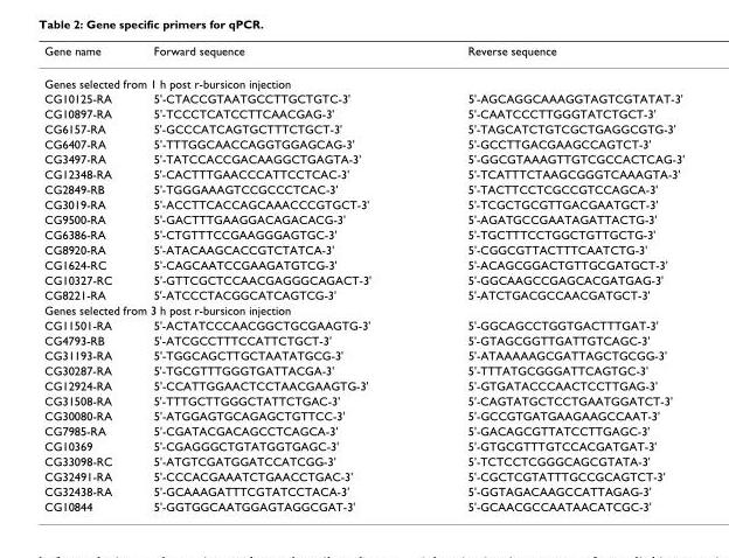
<table><thead><tr><td>Gene name</td><td>Forward sequence</td><td>Reverse sequence</td></tr></thead><tbody><tr><td colspan="3">Genes selected from 1 h post r-bursicon injection</td></tr><tr><td>CG10125-RA</td><td>5&#x27;-CTACCGTAATGCCTTGCTGTC-3&#x27;</td><td>5&#x27;-AGCAGGCAAAGGTAGTCGTATAT-3&#x27;</td></tr><tr><td>CG10897-RA</td><td>5&#x27;-TCCCTCATCCTTCAACGAG-3&#x27;</td><td>5&#x27;-CAATCCCTTGGGTATCTGCT-3&#x27;</td></tr><tr><td>CG6157-RA</td><td>5&#x27;-GCCCATCAGTGCTTTCTGCT-3&#x27;</td><td>5&#x27;-TAGCATCTGTCGCTGAGGCGTG-3&#x27;</td></tr><tr><td>CG6407-RA</td><td>5&#x27;-TTTGGCAACCAGGTGGAGCAG-3&#x27;</td><td>5&#x27;-GCCTTGACGAAGCCAGTCT-3&#x27;</td></tr><tr><td>CG3497-RA</td><td>5&#x27;-TATCCACCGACAAGGCTGAGTA-3&#x27;</td><td>5&#x27;-GGCGTAAAGTTGTCGCCACTCAG-3&#x27;</td></tr><tr><td>CG12348-RA</td><td>5&#x27;-CACTTTGAACCCATTCCTCAC-3&#x27;</td><td>5&#x27;-TCATTTCTAAGCGGGTCAAAGTA-3&#x27;</td></tr><tr><td>CG2849-RB</td><td>5&#x27;-TGGGAAAGTCCGCCCTCAC-3&#x27;</td><td>5&#x27;-TACTTCCTCGCCGTCCAGCA-3&#x27;</td></tr><tr><td>CG3019-RA</td><td>5&#x27;-ACCTTCACCAGCAAACCCGTGCT-3&#x27;</td><td>5&#x27;-TCGCTGCGTTGACGAATGCT-3&#x27;</td></tr><tr><td>CG9500-RA</td><td>5&#x27;-GACTTTGAAGGACAGACACG-3&#x27;</td><td>5&#x27;-AGATGCCGAATAGATTACTG-3&#x27;</td></tr><tr><td>CG6386-RA</td><td>5&#x27;-CTGTTTCCGAAGGGAGTGC-3&#x27;</td><td>5&#x27;-TGCTTTCCTGGCTGTTGCTG-3&#x27;</td></tr><tr><td>CG8920-RA</td><td>5&#x27;-ATACAAGCACCGTCTATCA-3&#x27;</td><td>5&#x27;-CGGCGTTACTTTCAATCTG-3&#x27;</td></tr><tr><td>CG1624-RC</td><td>5&#x27;-CAGCAATCCGAAGATGTCG-3&#x27;</td><td>5&#x27;-ACAGCGGACTGTTGCGATGCT-3&#x27;</td></tr><tr><td>CG10327-RC</td><td>5&#x27;-GTTCGCTCCAACGAGGGCAGACT-3&#x27;</td><td>5&#x27;-GGCAAGCCGAGCACGATGAG-3&#x27;</td></tr><tr><td>CG8221-RA</td><td>5&#x27;-ATCCCTACGGCATCAGTCG-3&#x27;</td><td>5&#x27;-ATCTGACGCCAACGATGCT-3&#x27;</td></tr><tr><td colspan="3">Genes selected from 3 h post r-bursicon injection</td></tr><tr><td>CG11501-RA</td><td>5&#x27;-ACTATCCCAACGGCTGCGAAGTG-3&#x27;</td><td>5&#x27;-GGCAGCCTGGTGACTTTGAT-3&#x27;</td></tr><tr><td>CG4793-RB</td><td>5&#x27;-ATCGCCTTTCCATTCTGCT-3&#x27;</td><td>5&#x27;-GTAGCGGTTGATTGTCAGC-3&#x27;</td></tr><tr><td>CG31193-RA</td><td>5&#x27;-TGGCAGCTTGCTAATATGCG-3&#x27;</td><td>5&#x27;-ATAAAAAGCGATTAGCTGCGG-3&#x27;</td></tr><tr><td>CG30287-RA</td><td>5&#x27;-TGCGTTTGGGTGATTACGA-3&#x27;</td><td>5&#x27;-TTTATGCGGGATTCAGTGC-3&#x27;</td></tr><tr><td>CG12924-RA</td><td>5&#x27;-CCATTGGAACTCCTAACGAAGTG-3&#x27;</td><td>5&#x27;-GTGATACCCAACTCCTTGAG-3&#x27;</td></tr><tr><td>CG31508-RA</td><td>5&#x27;-TTTGCTTGGGCTATTCTGAC-3&#x27;</td><td>5&#x27;-CAGTATGCTCCTGAATGGATCT-3&#x27;</td></tr><tr><td>CG30080-RA</td><td>5&#x27;-ATGGAGTGCAGAGCTGTTCC-3&#x27;</td><td>5&#x27;-GCCGTGATGAAGAAGCCAAT-3&#x27;</td></tr><tr><td>CG7985-RA</td><td>5&#x27;-CGATACGACAGCCTCAGCA-3&#x27;</td><td>5&#x27;-GACAGCGTTATCCTTGAGC-3&#x27;</td></tr><tr><td>CG10369</td><td>5&#x27;-CGAGGGCTGTATGGTGAGC-3&#x27;</td><td>5&#x27;-GTGCGTTTGTCCACGATGAT-3&#x27;</td></tr><tr><td>CG33098-RC</td><td>5&#x27;-ATGTCGATGGATCCATCGG-3&#x27;</td><td>5&#x27;-TCTCCTCGGGCAGCGTATA-3&#x27;</td></tr><tr><td>CG32491-RA</td><td>5&#x27;-CCCACGAAATCTGAACCTGAC-3&#x27;</td><td>5&#x27;-CGCTCGTATTTGCCGCAGTCT-3&#x27;</td></tr><tr><td>CG32438-RA</td><td>5&#x27;-GCAAAGATTTCGTATCCTACA-3&#x27;</td><td>5&#x27;-GGTAGACAAGCCATTAGAG-3&#x27;</td></tr><tr><td>CG10844</td><td>5&#x27;-GGTGGCAATGGAGTAGGCGAT-3&#x27;</td><td>5&#x27;-GCAACGCCAATAACATCGC-3&#x27;</td></tr></tbody></table>